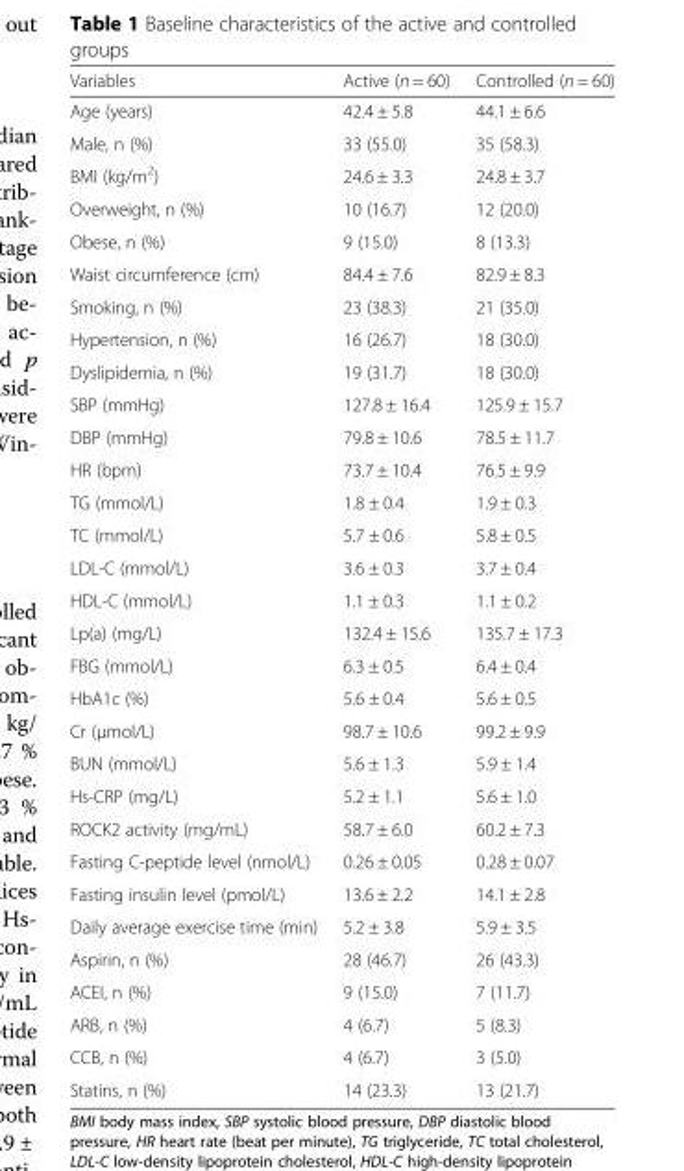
<table><thead><tr><td>Variables</td><td>Active (n = 60)</td><td>Controlled (n = 60)</td></tr></thead><tbody><tr><td>Age (years)</td><td>42.4 ± 5.8</td><td>44.1 ± 6.6</td></tr><tr><td>Male, n (%)</td><td>33 (55.0)</td><td>35 (58.3)</td></tr><tr><td>BMI (kg/m<sup>2</sup>)</td><td>24.6 ± 3.3</td><td>24.8 ± 3.7</td></tr><tr><td>Overweight, n (%)</td><td>10 (16.7)</td><td>12 (20.0)</td></tr><tr><td>Obese, n (%)</td><td>9 (15.0)</td><td>8 (13.3)</td></tr><tr><td>Waist circumference (cm)</td><td>84.4 ± 7.6</td><td>82.9 ± 8.3</td></tr><tr><td>Smoking, n (%)</td><td>23 (38.3)</td><td>21 (35.0)</td></tr><tr><td>Hypertension, n (%)</td><td>16 (26.7)</td><td>18 (30.0)</td></tr><tr><td>Dyslipidemia, n (%)</td><td>19 (31.7)</td><td>18 (30.0)</td></tr><tr><td>SBP (mmHg)</td><td>127.8 ± 16.4</td><td>125.9 ± 15.7</td></tr><tr><td>DBP (mmHg)</td><td>79.8 ± 10.6</td><td>78.5 ± 11.7</td></tr><tr><td>HR (bpm)</td><td>73.7 ± 10.4</td><td>76.5 ± 9.9</td></tr><tr><td>TG (mmol/L)</td><td>1.8 ± 0.4</td><td>1.9 ± 0.3</td></tr><tr><td>TC (mmol/L)</td><td>5.7 ± 0.6</td><td>5.8 ± 0.5</td></tr><tr><td>LDL-C (mmol/L)</td><td>3.6 ± 0.3</td><td>3.7 ± 0.4</td></tr><tr><td>HDL-C (mmol/L)</td><td>1.1 ± 0.3</td><td>1.1 ± 0.2</td></tr><tr><td>Lp(a) (mg/L)</td><td>132.4 ± 15.6</td><td>135.7 ± 17.3</td></tr><tr><td>FBG (mmol/L)</td><td>6.3 ± 0.5</td><td>6.4 ± 0.4</td></tr><tr><td>HbA1c (%)</td><td>5.6 ± 0.4</td><td>5.6 ± 0.5</td></tr><tr><td>Cr (μmol/L)</td><td>98.7 ± 10.6</td><td>99.2 ± 9.9</td></tr><tr><td>BUN (mmol/L)</td><td>5.6 ± 1.3</td><td>5.9 ± 1.4</td></tr><tr><td>Hs-CRP (mg/L)</td><td>5.2 ± 1.1</td><td>5.6 ± 1.0</td></tr><tr><td>ROCK2 activity (mg/mL)</td><td>58.7 ± 6.0</td><td>60.2 ± 7.3</td></tr><tr><td>Fasting C-peptide level (nmol/L)</td><td>0.26 ± 0.05</td><td>0.28 ± 0.07</td></tr><tr><td>Fasting insulin level (pmol/L)</td><td>13.6 ± 2.2</td><td>14.1 ± 2.8</td></tr><tr><td>Daily average exercise time (min)</td><td>5.2 ± 3.8</td><td>5.9 ± 3.5</td></tr><tr><td>Aspirin, n (%)</td><td>28 (46.7)</td><td>26 (43.3)</td></tr><tr><td>ACEI, n (%)</td><td>9 (15.0)</td><td>7 (11.7)</td></tr><tr><td>ARB, n (%)</td><td>4 (6.7)</td><td>5 (8.3)</td></tr><tr><td>CCB, n (%)</td><td>4 (6.7)</td><td>3 (5.0)</td></tr><tr><td>Statins, n (%)</td><td>14 (23.3)</td><td>13 (21.7)</td></tr></tbody></table>